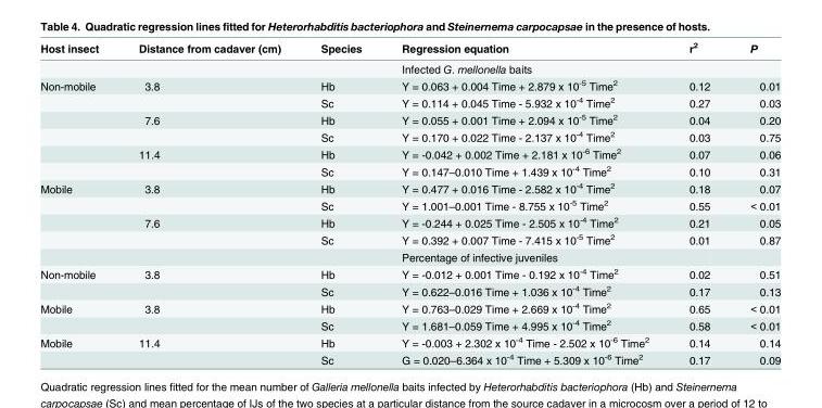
<table><thead><tr><td>Host insect</td><td>Distance from cadaver (cm)</td><td>Species</td><td>Regression equation</td><td>r<sup>2</sup></td><td>P</td></tr></thead><tbody><tr><td></td><td></td><td></td><td>Infected G. mellonella baits</td><td></td><td></td></tr><tr><td rowspan="6">Non-mobile</td><td>3.8</td><td>Hb</td><td>Y = 0.063 + 0.004 Time + 2.879 x 10<sup>-5</sup> Time<sup>2</sup></td><td>0.12</td><td>0.01</td></tr><tr><td></td><td>Sc</td><td>Y = 0.114 + 0.045 Time - 5.932 x 10<sup>-4</sup> Time<sup>2</sup></td><td>0.27</td><td>0.03</td></tr><tr><td>7.6</td><td>Hb</td><td>Y = 0.055 + 0.001 Time + 2.094 x 10<sup>-5</sup> Time<sup>2</sup></td><td>0.04</td><td>0.20</td></tr><tr><td></td><td>Sc</td><td>Y = 0.170 + 0.022 Time - 2.137 x 10<sup>-4</sup> Time<sup>2</sup></td><td>0.03</td><td>0.75</td></tr><tr><td>11.4</td><td>Hb</td><td>Y = -0.042 + 0.002 Time + 2.181 x 10<sup>-6</sup> Time<sup>2</sup></td><td>0.07</td><td>0.06</td></tr><tr><td></td><td>Sc</td><td>Y = 0.147–0.010 Time + 1.439 x 10<sup>-4</sup> Time<sup>2</sup></td><td>0.10</td><td>0.31</td></tr><tr><td rowspan="5">Mobile</td><td>3.8</td><td>Hb</td><td>Y = 0.477 + 0.016 Time - 2.582 x 10<sup>-4</sup> Time<sup>2</sup></td><td>0.18</td><td>0.07</td></tr><tr><td></td><td>Sc</td><td>Y = 1.001–0.001 Time - 8.755 x 10<sup>-5</sup> Time<sup>2</sup></td><td>0.55</td><td>&lt; 0.01</td></tr><tr><td>7.6</td><td>Hb</td><td>Y = -0.244 + 0.025 Time - 2.505 x 10<sup>-4</sup> Time<sup>2</sup></td><td>0.21</td><td>0.05</td></tr><tr><td></td><td>Sc</td><td>Y = 0.392 + 0.007 Time - 7.415 x 10<sup>-5</sup> Time<sup>2</sup></td><td>0.01</td><td>0.87</td></tr><tr><td></td><td></td><td>Percentage of infective juveniles</td><td></td><td></td></tr><tr><td rowspan="2">Non-mobile</td><td>3.8</td><td>Hb</td><td>Y = -0.012 + 0.001 Time - 0.192 x 10<sup>-4</sup> Time<sup>2</sup></td><td>0.02</td><td>0.51</td></tr><tr><td></td><td>Sc</td><td>Y = 0.622–0.016 Time + 1.036 x 10<sup>-4</sup> Time<sup>2</sup></td><td>0.17</td><td>0.13</td></tr><tr><td rowspan="2">Mobile</td><td>3.8</td><td>Hb</td><td>Y = 0.763–0.029 Time + 2.669 x 10<sup>-4</sup> Time<sup>2</sup></td><td>0.65</td><td>&lt; 0.01</td></tr><tr><td></td><td>Sc</td><td>Y = 1.681–0.059 Time + 4.995 x 10<sup>-4</sup> Time<sup>2</sup></td><td>0.58</td><td>&lt; 0.01</td></tr><tr><td rowspan="2">Mobile</td><td>11.4</td><td>Hb</td><td>Y = -0.003 + 2.302 x 10<sup>-4</sup> Time - 2.502 x 10<sup>-6</sup> Time<sup>2</sup></td><td>0.14</td><td>0.14</td></tr><tr><td></td><td>Sc</td><td>G = 0.020–6.364 x 10<sup>-4</sup> Time + 5.309 x 10<sup>-6</sup> Time<sup>2</sup></td><td>0.17</td><td>0.09</td></tr></tbody></table>